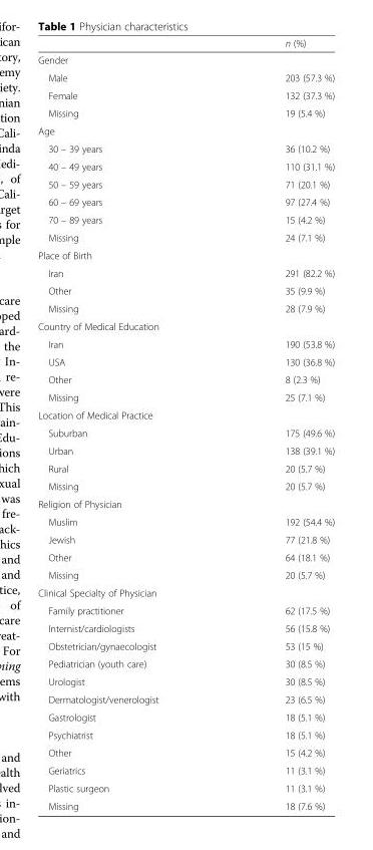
<table><thead><tr><td></td><td>n (%)</td></tr></thead><tbody><tr><td colspan="2">Gender</td></tr><tr><td>Male</td><td>203 (57.3 %)</td></tr><tr><td>Female</td><td>132 (37.3 %)</td></tr><tr><td>Missing</td><td>19 (5.4 %)</td></tr><tr><td colspan="2">Age</td></tr><tr><td>30 – 39 years</td><td>36 (10.2 %)</td></tr><tr><td>40 – 49 years</td><td>110 (31.1 %)</td></tr><tr><td>50 – 59 years</td><td>71 (20.1 %)</td></tr><tr><td>60 – 69 years</td><td>97 (27.4 %)</td></tr><tr><td>70 – 89 years</td><td>15 (4.2 %)</td></tr><tr><td>Missing</td><td>24 (7.1 %)</td></tr><tr><td colspan="2">Place of Birth</td></tr><tr><td>Iran</td><td>291 (82.2 %)</td></tr><tr><td>Other</td><td>35 (9.9 %)</td></tr><tr><td>Missing</td><td>28 (7.9 %)</td></tr><tr><td colspan="2">Country of Medical Education</td></tr><tr><td>Iran</td><td>190 (53.8 %)</td></tr><tr><td>USA</td><td>130 (36.8 %)</td></tr><tr><td>Other</td><td>8 (2.3 %)</td></tr><tr><td>Missing</td><td>25 (7.1 %)</td></tr><tr><td colspan="2">Location of Medical Practice</td></tr><tr><td>Suburban</td><td>175 (49.6 %)</td></tr><tr><td>Urban</td><td>138 (39.1 %)</td></tr><tr><td>Rural</td><td>20 (5.7 %)</td></tr><tr><td>Missing</td><td>20 (5.7 %)</td></tr><tr><td colspan="2">Religion of Physician</td></tr><tr><td>Muslim</td><td>192 (54.4 %)</td></tr><tr><td>Jewish</td><td>77 (21.8 %)</td></tr><tr><td>Other</td><td>64 (18.1 %)</td></tr><tr><td>Missing</td><td>20 (5.7 %)</td></tr><tr><td colspan="2">Clinical Specialty of Physician</td></tr><tr><td>Family practitioner</td><td>62 (17.5 %)</td></tr><tr><td>Internist/cardiologists</td><td>56 (15.8 %)</td></tr><tr><td>Obstetrician/gynaecologist</td><td>53 (15 %)</td></tr><tr><td>Pediatrician (youth care)</td><td>30 (8.5 %)</td></tr><tr><td>Urologist</td><td>30 (8.5 %)</td></tr><tr><td>Dermatologist/venerologist</td><td>23 (6.5 %)</td></tr><tr><td>Gastrologist</td><td>18 (5.1 %)</td></tr><tr><td>Psychiatrist</td><td>18 (5.1 %)</td></tr><tr><td>Other</td><td>15 (4.2 %)</td></tr><tr><td>Geriatrics</td><td>11 (3.1 %)</td></tr><tr><td>Plastic surgeon</td><td>11 (3.1 %)</td></tr><tr><td>Missing</td><td>18 (7.6 %)</td></tr></tbody></table>